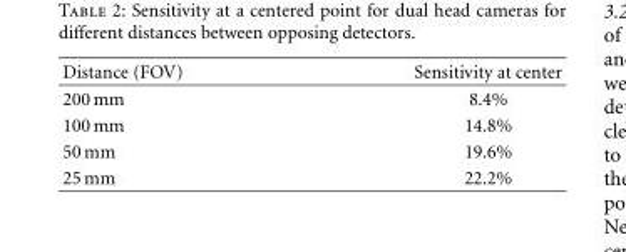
<table><thead><tr><td>Distance (FOV)</td><td>Sensitivity at center</td></tr></thead><tbody><tr><td>200 mm</td><td>8.4%</td></tr><tr><td>100 mm</td><td>14.8%</td></tr><tr><td>50 mm</td><td>19.6%</td></tr><tr><td>25 mm</td><td>22.2%</td></tr></tbody></table>